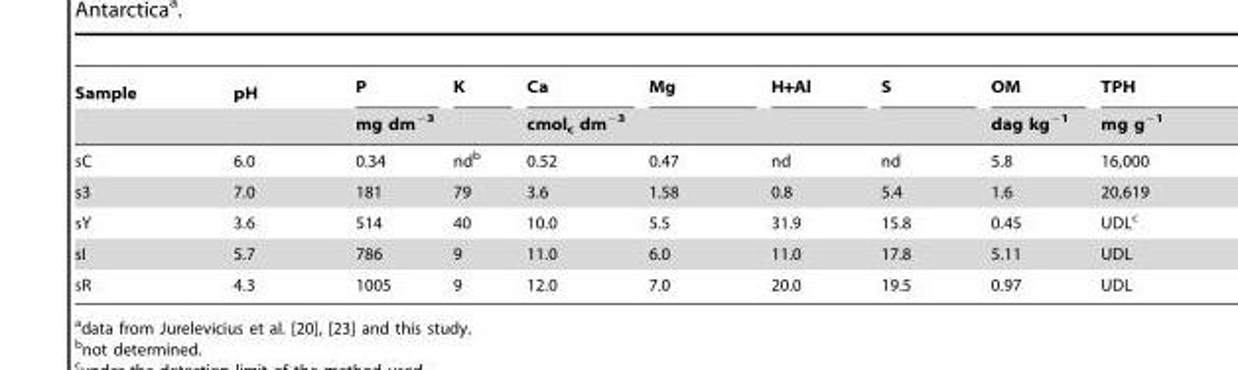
<table><thead><tr><td rowspan="2">Sample</td><td rowspan="2">pH</td><td>P</td><td>K</td><td>Ca</td><td>Mg</td><td>H+Al</td><td>S</td><td rowspan="2">OM dag kg<sup>−1</sup></td><td rowspan="2">TPH mg g<sup>−1</sup></td></tr><tr><td colspan="2">mg dm<sup>−3</sup></td><td colspan="4">cmol<sub>c</sub> dm<sup>−3</sup></td></tr></thead><tbody><tr><td>sC</td><td>6.0</td><td>0.34</td><td>nd<sup>b</sup></td><td>0.52</td><td>0.47</td><td>nd</td><td>nd</td><td>5.8</td><td>16,000</td></tr><tr><td>s3</td><td>7.0</td><td>181</td><td>79</td><td>3.6</td><td>1.58</td><td>0.8</td><td>5.4</td><td>1.6</td><td>20,619</td></tr><tr><td>sY</td><td>3.6</td><td>514</td><td>40</td><td>10.0</td><td>5.5</td><td>31.9</td><td>15.8</td><td>0.45</td><td>UDL<sup>c</sup></td></tr><tr><td>sI</td><td>5.7</td><td>786</td><td>9</td><td>11.0</td><td>6.0</td><td>11.0</td><td>17.8</td><td>5.11</td><td>UDL</td></tr><tr><td>sR</td><td>4.3</td><td>1005</td><td>9</td><td>12.0</td><td>7.0</td><td>20.0</td><td>19.5</td><td>0.97</td><td>UDL</td></tr></tbody></table>